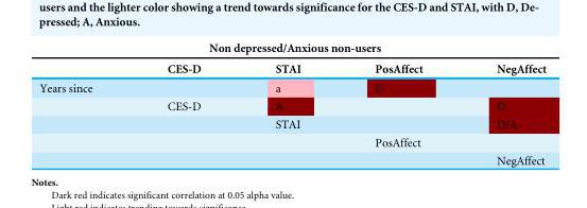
<table><thead><tr><td colspan="5">Non depressed/Anxious non-users</td></tr><tr><td></td><td>CES-D</td><td>STAI</td><td>PosAffect</td><td>NegAffect</td></tr></thead><tbody><tr><td rowspan="5">Years since</td><td></td><td>a</td><td>D</td><td></td></tr><tr><td>CES-D</td><td>A</td><td></td><td>D</td></tr><tr><td></td><td>STAI</td><td></td><td>D/A</td></tr><tr><td></td><td></td><td>PosAffect</td><td></td></tr><tr><td></td><td></td><td></td><td>NegAffect</td></tr></tbody></table>